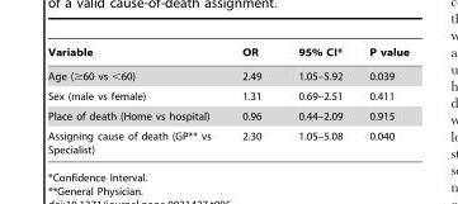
<table><thead><tr><td>Variable</td><td>OR</td><td>95% CI*</td><td>P value</td></tr></thead><tbody><tr><td>Age (≥60 vs &lt;60)</td><td>2.49</td><td>1.05–5.92</td><td>0.039</td></tr><tr><td>Sex (male vs female)</td><td>1.31</td><td>0.69–2.51</td><td>0.411</td></tr><tr><td>Place of death (Home vs hospital)</td><td>0.96</td><td>0.44–2.09</td><td>0.915</td></tr><tr><td>Assigning cause of death (GP** vs Specialist)</td><td>2.30</td><td>1.05–5.08</td><td>0.040</td></tr></tbody></table>